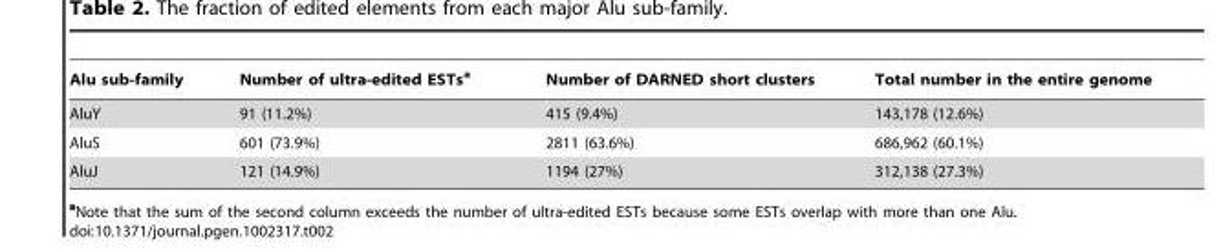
<table><thead><tr><td>Alu sub-family</td><td>Number of ultra-edited ESTs<sup>a</sup></td><td>Number of DARNED short clusters</td><td>Total number in the entire genome</td></tr></thead><tbody><tr><td>AluY</td><td>91 (11.2%)</td><td>415 (9.4%)</td><td>143,178 (12.6%)</td></tr><tr><td>AluS</td><td>601 (73.9%)</td><td>2811 (63.6%)</td><td>686,962 (60.1%)</td></tr><tr><td>AluJ</td><td>121 (14.9%)</td><td>1194 (27%)</td><td>312,138 (27.3%)</td></tr></tbody></table>